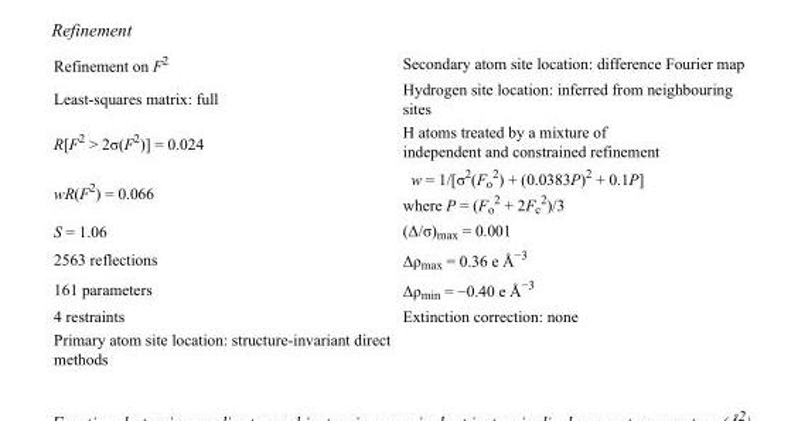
<table><tbody><tr><td>Refinement on F<sup>2</sup></td><td>Secondary atom site location: difference Fourier map</td></tr><tr><td>Least-squares matrix: full</td><td>Hydrogen site location: inferred from neighbouring sites</td></tr><tr><td>R[F<sup>2</sup> &gt; 2σ(F<sup>2</sup>)] = 0.024</td><td>H atoms treated by a mixture of independent and constrained refinement</td></tr><tr><td>wR(F<sup>2</sup>) = 0.066</td><td>w = 1/[σ<sup>2</sup>(F<sub>o</sub> <sup>2</sup>) + (0.0383P)<sup>2</sup> + 0.1P] where P = (F<sub>o</sub> <sup>2</sup> + 2F<sub>c</sub> <sup>2</sup>)/3</td></tr><tr><td>S = 1.06</td><td>(Δ/σ)<sub>max</sub> = 0.001</td></tr><tr><td>2563 reflections</td><td>Δρ<sub>max</sub> = 0.36 e Å<sup>−3</sup></td></tr><tr><td>161 parameters</td><td>Δρ<sub>min</sub> = −0.40 e Å<sup>−3</sup></td></tr><tr><td>4 restraints</td><td>Extinction correction: none</td></tr><tr><td>Primary atom site location: structure-invariant direct methods</td><td></td></tr></tbody></table>